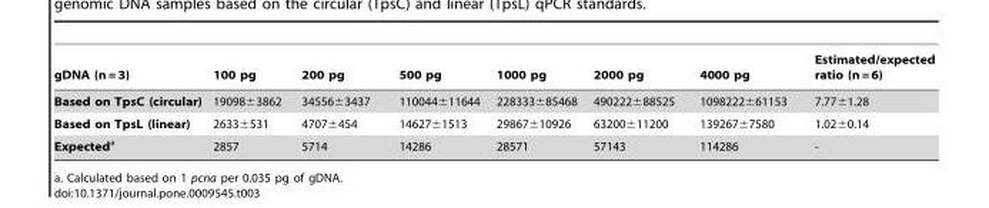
<table><thead><tr><td>gDNA (n = 3)</td><td>100 pg</td><td>200 pg</td><td>500 pg</td><td>1000 pg</td><td>2000 pg</td><td>4000 pg</td><td>Estimated/expected ratio (n = 6)</td></tr></thead><tbody><tr><td>Based on TpsC (circular)</td><td>19098±3862</td><td>34556±3437</td><td>110044±11644</td><td>228333±85468</td><td>490222±88525</td><td>1098222±61153</td><td>7.77±1.28</td></tr><tr><td>Based on TpsL (linear)</td><td>2633±531</td><td>4707±454</td><td>14627±1513</td><td>29867±10926</td><td>63200±11200</td><td>139267±7580</td><td>1.02±0.14</td></tr><tr><td>Expected<sup>a</sup></td><td>2857</td><td>5714</td><td>14286</td><td>28571</td><td>57143</td><td>114286</td><td>-</td></tr></tbody></table>